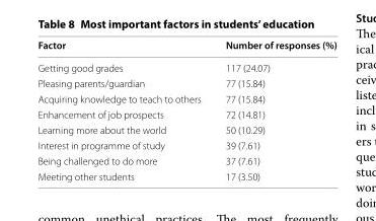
<table><thead><tr><td>Factor</td><td>Number of responses (%)</td></tr></thead><tbody><tr><td>Getting good grades</td><td>117 (24.07)</td></tr><tr><td>Pleasing parents/guardian</td><td>77 (15.84)</td></tr><tr><td>Acquiring knowledge to teach to others</td><td>77 (15.84)</td></tr><tr><td>Enhancement of job prospects</td><td>72 (14.81)</td></tr><tr><td>Learning more about the world</td><td>50 (10.29)</td></tr><tr><td>Interest in programme of study</td><td>39 (7.61)</td></tr><tr><td>Being challenged to do more</td><td>37 (7.61)</td></tr><tr><td>Meeting other students</td><td>17 (3.50)</td></tr></tbody></table>